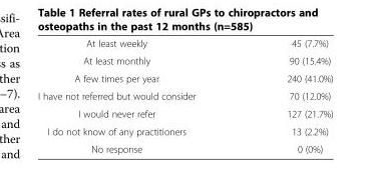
<table><tbody><tr><td>At least weekly</td><td>45 (7.7%)</td></tr><tr><td>At least monthly</td><td>90 (15.4%)</td></tr><tr><td>A few times per year</td><td>240 (41.0%)</td></tr><tr><td>I have not referred but would consider</td><td>70 (12.0%)</td></tr><tr><td>I would never refer</td><td>127 (21.7%)</td></tr><tr><td>I do not know of any practitioners</td><td>13 (2.2%)</td></tr><tr><td>No response</td><td>0 (0%)</td></tr></tbody></table>